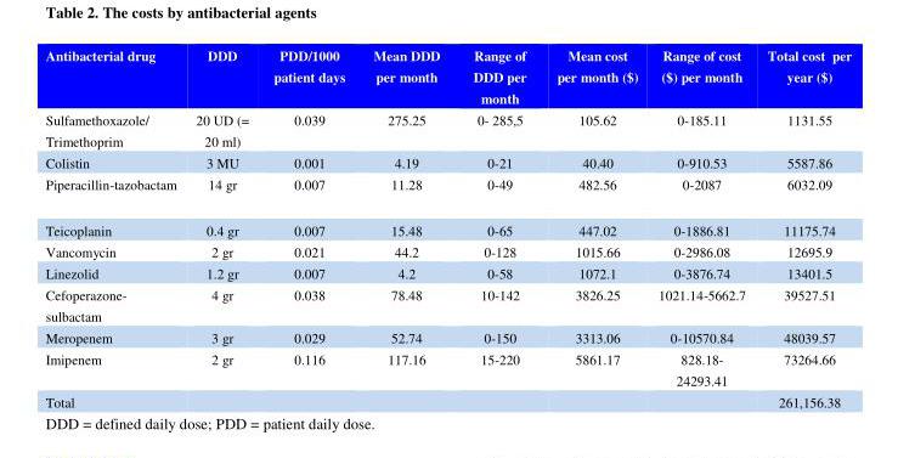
<table><thead><tr><td>Antibacterial drug</td><td>DDD</td><td>PDD/1000 patient days</td><td>Mean DDD per month</td><td>Range of DDD per month</td><td>Mean cost per month ($)</td><td>Range of cost ($) per month</td><td>Total cost per year ($)</td></tr></thead><tbody><tr><td>Sulfamethoxazole/ Trimethoprim</td><td>20 UD (= 20 ml)</td><td>0.039</td><td>275.25</td><td>0- 285,5</td><td>105.62</td><td>0-185.11</td><td>1131.55</td></tr><tr><td>Colistin</td><td>3 MU</td><td>0.001</td><td>4.19</td><td>0-21</td><td>40.40</td><td>0-910.53</td><td>5587.86</td></tr><tr><td>Piperacillin-tazobactam</td><td>14 gr</td><td>0.007</td><td>11.28</td><td>0-49</td><td>482.56</td><td>0-2087</td><td>6032.09</td></tr><tr><td>Teicoplanin</td><td>0.4 gr</td><td>0.007</td><td>15.48</td><td>0-65</td><td>447.02</td><td>0-1886.81</td><td>11175.74</td></tr><tr><td>Vancomycin</td><td>2 gr</td><td>0.021</td><td>44.2</td><td>0-128</td><td>1015.66</td><td>0-2986.08</td><td>12695.9</td></tr><tr><td>Linezolid</td><td>1.2 gr</td><td>0.007</td><td>4.2</td><td>0-58</td><td>1072.1</td><td>0-3876.74</td><td>13401.5</td></tr><tr><td>Cefoperazone- sulbactam</td><td>4 gr</td><td>0.038</td><td>78.48</td><td>10-142</td><td>3826.25</td><td>1021.14-5662.7</td><td>39527.51</td></tr><tr><td>Meropenem</td><td>3 gr</td><td>0.029</td><td>52.74</td><td>0-150</td><td>3313.06</td><td>0-10570.84</td><td>48039.57</td></tr><tr><td>Imipenem</td><td>2 gr</td><td>0.116</td><td>117.16</td><td>15-220</td><td>5861.17</td><td>828.18- 24293.41</td><td>73264.66</td></tr><tr><td>Total</td><td></td><td></td><td></td><td></td><td></td><td></td><td>261,156.38</td></tr></tbody></table>